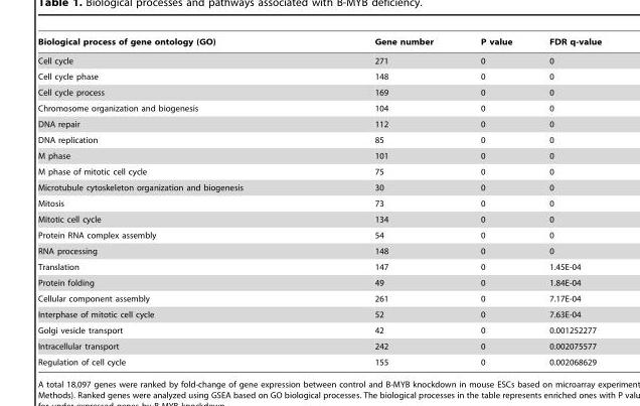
<table><thead><tr><td>Biological process of gene ontology (GO)</td><td>Gene number</td><td>P value</td><td>FDR q-value</td></tr></thead><tbody><tr><td>Cell cycle</td><td>271</td><td>0</td><td>0</td></tr><tr><td>Cell cycle phase</td><td>148</td><td>0</td><td>0</td></tr><tr><td>Cell cycle process</td><td>169</td><td>0</td><td>0</td></tr><tr><td>Chromosome organization and biogenesis</td><td>104</td><td>0</td><td>0</td></tr><tr><td>DNA repair</td><td>112</td><td>0</td><td>0</td></tr><tr><td>DNA replication</td><td>85</td><td>0</td><td>0</td></tr><tr><td>M phase</td><td>101</td><td>0</td><td>0</td></tr><tr><td>M phase of mitotic cell cycle</td><td>75</td><td>0</td><td>0</td></tr><tr><td>Microtubule cytoskeleton organization and biogenesis</td><td>30</td><td>0</td><td>0</td></tr><tr><td>Mitosis</td><td>73</td><td>0</td><td>0</td></tr><tr><td>Mitotic cell cycle</td><td>134</td><td>0</td><td>0</td></tr><tr><td>Protein RNA complex assembly</td><td>54</td><td>0</td><td>0</td></tr><tr><td>RNA processing</td><td>148</td><td>0</td><td>0</td></tr><tr><td>Translation</td><td>147</td><td>0</td><td>1.45E-04</td></tr><tr><td>Protein folding</td><td>49</td><td>0</td><td>1.84E-04</td></tr><tr><td>Cellular component assembly</td><td>261</td><td>0</td><td>7.17E-04</td></tr><tr><td>Interphase of mitotic cell cycle</td><td>52</td><td>0</td><td>7.63E-04</td></tr><tr><td>Golgi vesicle transport</td><td>42</td><td>0</td><td>0.001252277</td></tr><tr><td>Intracellular transport</td><td>242</td><td>0</td><td>0.002075577</td></tr><tr><td>Regulation of cell cycle</td><td>155</td><td>0</td><td>0.002068629</td></tr></tbody></table>